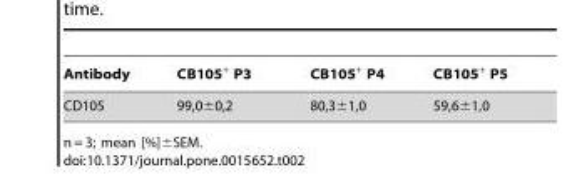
<table><thead><tr><td>Antibody</td><td>CB105<sup>+</sup> P3</td><td>CB105<sup>+</sup> P4</td><td>CB105<sup>+</sup> P5</td></tr></thead><tbody><tr><td>CD105</td><td>99,0±0,2</td><td>80,3±1,0</td><td>59,6±1,0</td></tr></tbody></table>